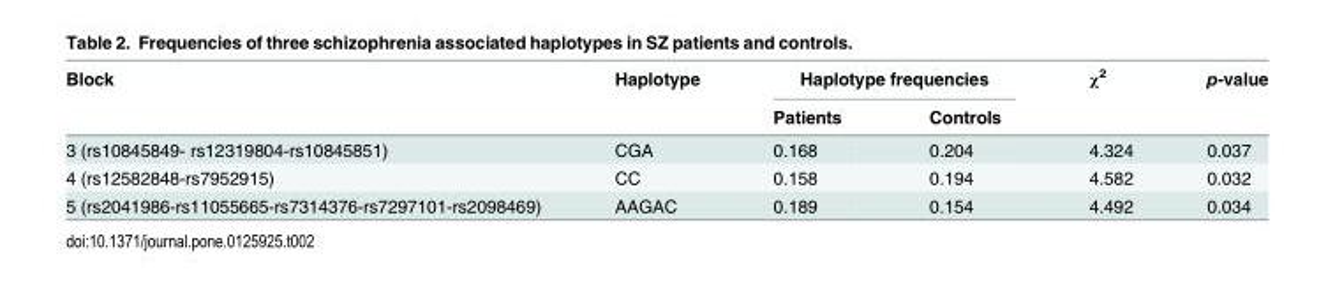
<table><thead><tr><td rowspan="2">Block</td><td rowspan="2">Haplotype</td><td colspan="2">Haplotype frequencies</td><td rowspan="2">χ<sup>2</sup></td><td rowspan="2">p-value</td></tr><tr><td>Patients</td><td>Controls</td></tr></thead><tbody><tr><td>3 (rs10845849- rs12319804-rs10845851)</td><td>CGA</td><td>0.168</td><td>0.204</td><td>4.324</td><td>0.037</td></tr><tr><td>4 (rs12582848-rs7952915)</td><td>CC</td><td>0.158</td><td>0.194</td><td>4.582</td><td>0.032</td></tr><tr><td>5 (rs2041986-rs11055665-rs7314376-rs7297101-rs2098469)</td><td>AAGAC</td><td>0.189</td><td>0.154</td><td>4.492</td><td>0.034</td></tr></tbody></table>